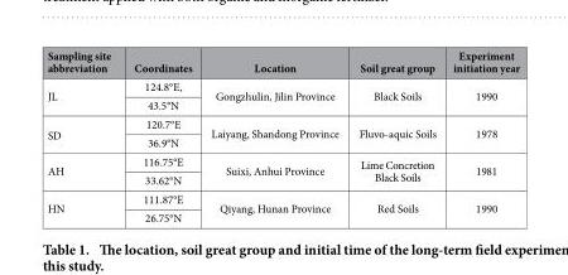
<table><thead><tr><td>Sampling site abbreviation</td><td>Coordinates</td><td>Location</td><td>Soil great group</td><td>Experiment initiation year</td></tr></thead><tbody><tr><td rowspan="2">JL</td><td>124.8°E,</td><td rowspan="2">Gongzhulin, Jilin Province</td><td rowspan="2">Black Soils</td><td rowspan="2">1990</td></tr><tr><td>43.5°N</td></tr><tr><td rowspan="2">SD</td><td>120.7°E</td><td rowspan="2">Laiyang, Shandong Province</td><td rowspan="2">Fluvo-aquic Soils</td><td rowspan="2">1978</td></tr><tr><td>36.9°N</td></tr><tr><td rowspan="2">AH</td><td>116.75°E</td><td rowspan="2">Suixi, Anhui Province</td><td rowspan="2">Lime Concretion Black Soils</td><td rowspan="2">1981</td></tr><tr><td>33.62°N</td></tr><tr><td rowspan="2">HN</td><td>111.87°E</td><td rowspan="2">Qiyang, Hunan Province</td><td rowspan="2">Red Soils</td><td rowspan="2">1990</td></tr><tr><td>26.75°N</td></tr></tbody></table>